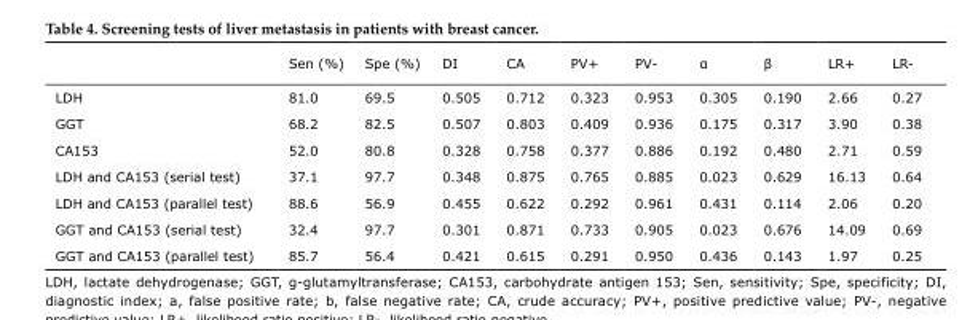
<table><thead><tr><td></td><td>Sen (%)</td><td>Spe (%)</td><td>DI</td><td>CA</td><td>PV+</td><td>PV-</td><td>α</td><td>β</td><td>LR+</td><td>LR-</td></tr></thead><tbody><tr><td>LDH</td><td>81.0</td><td>69.5</td><td>0.505</td><td>0.712</td><td>0.323</td><td>0.953</td><td>0.305</td><td>0.190</td><td>2.66</td><td>0.27</td></tr><tr><td>GGT</td><td>68.2</td><td>82.5</td><td>0.507</td><td>0.803</td><td>0.409</td><td>0.936</td><td>0.175</td><td>0.317</td><td>3.90</td><td>0.38</td></tr><tr><td>CA153</td><td>52.0</td><td>80.8</td><td>0.328</td><td>0.758</td><td>0.377</td><td>0.886</td><td>0.192</td><td>0.480</td><td>2.71</td><td>0.59</td></tr><tr><td>LDH and CA153 (serial test)</td><td>37.1</td><td>97.7</td><td>0.348</td><td>0.875</td><td>0.765</td><td>0.885</td><td>0.023</td><td>0.629</td><td>16.13</td><td>0.64</td></tr><tr><td>LDH and CA153 (parallel test)</td><td>88.6</td><td>56.9</td><td>0.455</td><td>0.622</td><td>0.292</td><td>0.961</td><td>0.431</td><td>0.114</td><td>2.06</td><td>0.20</td></tr><tr><td>GGT and CA153 (serial test)</td><td>32.4</td><td>97.7</td><td>0.301</td><td>0.871</td><td>0.733</td><td>0.905</td><td>0.023</td><td>0.676</td><td>14.09</td><td>0.69</td></tr><tr><td>GGT and CA153 (parallel test)</td><td>85.7</td><td>56.4</td><td>0.421</td><td>0.615</td><td>0.291</td><td>0.950</td><td>0.436</td><td>0.143</td><td>1.97</td><td>0.25</td></tr></tbody></table>